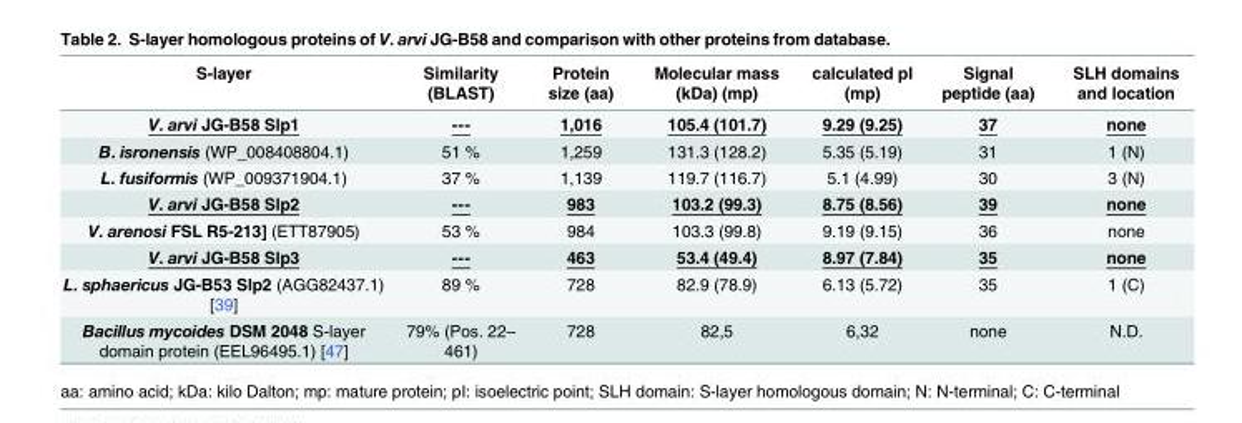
<table><thead><tr><td>S-layer</td><td>Similarity (BLAST)</td><td>Protein size (aa)</td><td>Molecular mass (kDa) (mp)</td><td>calculated pI (mp)</td><td>Signal peptide (aa)</td><td>SLH domains and location</td></tr></thead><tbody><tr><td>V. arvi JG-B58 Slp1</td><td>---</td><td>1,016</td><td>105.4 (101.7)</td><td>9.29 (9.25)</td><td>37</td><td>none</td></tr><tr><td>B. isronensis (WP_008408804.1)</td><td>51 %</td><td>1,259</td><td>131.3 (128.2)</td><td>5.35 (5.19)</td><td>31</td><td>1 (N)</td></tr><tr><td>L. fusiformis (WP_009371904.1)</td><td>37 %</td><td>1,139</td><td>119.7 (116.7)</td><td>5.1 (4.99)</td><td>30</td><td>3 (N)</td></tr><tr><td>V. arvi JG-B58 Slp2</td><td>---</td><td>983</td><td>103.2 (99.3)</td><td>8.75 (8.56)</td><td>39</td><td>none</td></tr><tr><td>V. arenosi FSL R5-213] (ETT87905)</td><td>53 %</td><td>984</td><td>103.3 (99.8)</td><td>9.19 (9.15)</td><td>36</td><td>none</td></tr><tr><td>V. arvi JG-B58 Slp3</td><td>---</td><td>463</td><td>53.4 (49.4)</td><td>8.97 (7.84)</td><td>35</td><td>none</td></tr><tr><td>L. sphaericus JG-B53 Slp2 (AGG82437.1) [39]</td><td>89 %</td><td>728</td><td>82.9 (78.9)</td><td>6.13 (5.72)</td><td>35</td><td>1 (C)</td></tr><tr><td>Bacillus mycoides DSM 2048 S-layer domain protein (EEL96495.1) [47]</td><td>79% (Pos. 22– 461)</td><td>728</td><td>82,5</td><td>6,32</td><td>none</td><td>N.D.</td></tr></tbody></table>